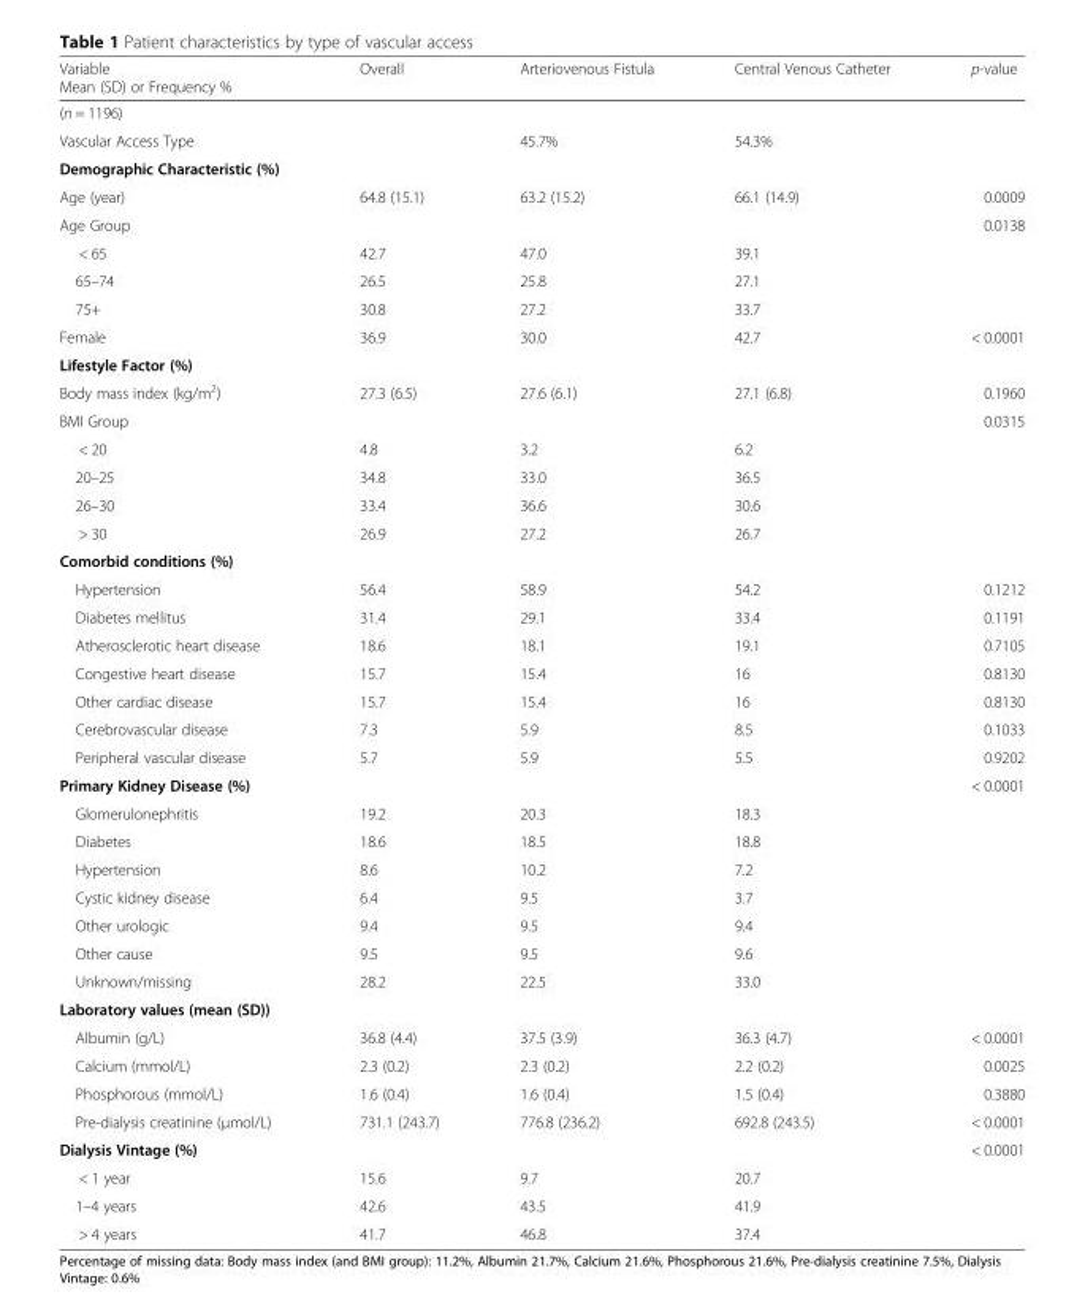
<table><thead><tr><td>Variable Mean (SD) or Frequency %</td><td>Overall</td><td>Arteriovenous Fistula</td><td>Central Venous Catheter</td><td>p-value</td></tr></thead><tbody><tr><td colspan="5">(n = 1196)</td></tr><tr><td>Vascular Access Type</td><td></td><td>45.7%</td><td>54.3%</td><td></td></tr><tr><td colspan="5">Demographic Characteristic (%)</td></tr><tr><td>Age (year)</td><td>64.8 (15.1)</td><td>63.2 (15.2)</td><td>66.1 (14.9)</td><td>0.0009</td></tr><tr><td>Age Group</td><td></td><td></td><td></td><td>0.0138</td></tr><tr><td>&lt; 65</td><td>42.7</td><td>47.0</td><td>39.1</td><td></td></tr><tr><td>65–74</td><td>26.5</td><td>25.8</td><td>27.1</td><td></td></tr><tr><td>75+</td><td>30.8</td><td>27.2</td><td>33.7</td><td></td></tr><tr><td>Female</td><td>36.9</td><td>30.0</td><td>42.7</td><td>&lt; 0.0001</td></tr><tr><td colspan="5">Lifestyle Factor (%)</td></tr><tr><td>Body mass index (kg/m<sup>2</sup>)</td><td>27.3 (6.5)</td><td>27.6 (6.1)</td><td>27.1 (6.8)</td><td>0.1960</td></tr><tr><td>BMI Group</td><td></td><td></td><td></td><td>0.0315</td></tr><tr><td>&lt; 20</td><td>4.8</td><td>3.2</td><td>6.2</td><td></td></tr><tr><td>20–25</td><td>34.8</td><td>33.0</td><td>36.5</td><td></td></tr><tr><td>26–30</td><td>33.4</td><td>36.6</td><td>30.6</td><td></td></tr><tr><td>&gt; 30</td><td>26.9</td><td>27.2</td><td>26.7</td><td></td></tr><tr><td colspan="5">Comorbid conditions (%)</td></tr><tr><td>Hypertension</td><td>56.4</td><td>58.9</td><td>54.2</td><td>0.1212</td></tr><tr><td>Diabetes mellitus</td><td>31.4</td><td>29.1</td><td>33.4</td><td>0.1191</td></tr><tr><td>Atherosclerotic heart disease</td><td>18.6</td><td>18.1</td><td>19.1</td><td>0.7105</td></tr><tr><td>Congestive heart disease</td><td>15.7</td><td>15.4</td><td>16</td><td>0.8130</td></tr><tr><td>Other cardiac disease</td><td>15.7</td><td>15.4</td><td>16</td><td>0.8130</td></tr><tr><td>Cerebrovascular disease</td><td>7.3</td><td>5.9</td><td>8.5</td><td>0.1033</td></tr><tr><td>Peripheral vascular disease</td><td>5.7</td><td>5.9</td><td>5.5</td><td>0.9202</td></tr><tr><td>Primary Kidney Disease (%)</td><td></td><td></td><td></td><td>&lt; 0.0001</td></tr><tr><td>Glomerulonephritis</td><td>19.2</td><td>20.3</td><td>18.3</td><td></td></tr><tr><td>Diabetes</td><td>18.6</td><td>18.5</td><td>18.8</td><td></td></tr><tr><td>Hypertension</td><td>8.6</td><td>10.2</td><td>7.2</td><td></td></tr><tr><td>Cystic kidney disease</td><td>6.4</td><td>9.5</td><td>3.7</td><td></td></tr><tr><td>Other urologic</td><td>9.4</td><td>9.5</td><td>9.4</td><td></td></tr><tr><td>Other cause</td><td>9.5</td><td>9.5</td><td>9.6</td><td></td></tr><tr><td>Unknown/missing</td><td>28.2</td><td>22.5</td><td>33.0</td><td></td></tr><tr><td colspan="5">Laboratory values (mean (SD))</td></tr><tr><td>Albumin (g/L)</td><td>36.8 (4.4)</td><td>37.5 (3.9)</td><td>36.3 (4.7)</td><td>&lt; 0.0001</td></tr><tr><td>Calcium (mmol/L)</td><td>2.3 (0.2)</td><td>2.3 (0.2)</td><td>2.2 (0.2)</td><td>0.0025</td></tr><tr><td>Phosphorous (mmol/L)</td><td>1.6 (0.4)</td><td>1.6 (0.4)</td><td>1.5 (0.4)</td><td>0.3880</td></tr><tr><td>Pre-dialysis creatinine (μmol/L)</td><td>731.1 (243.7)</td><td>776.8 (236.2)</td><td>692.8 (243.5)</td><td>&lt; 0.0001</td></tr><tr><td>Dialysis Vintage (%)</td><td></td><td></td><td></td><td>&lt; 0.0001</td></tr><tr><td>&lt; 1 year</td><td>15.6</td><td>9.7</td><td>20.7</td><td></td></tr><tr><td>1–4 years</td><td>42.6</td><td>43.5</td><td>41.9</td><td></td></tr><tr><td>&gt; 4 years</td><td>41.7</td><td>46.8</td><td>37.4</td><td></td></tr></tbody></table>